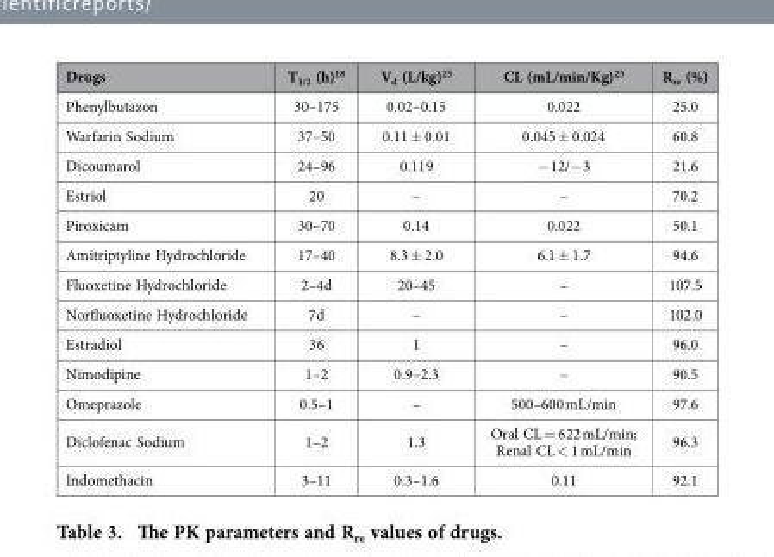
<table><thead><tr><td>Drugs</td><td>T<sub>1/2</sub> (h)<sup>18</sup></td><td>V<sub>d</sub> (L/kg)<sup>25</sup></td><td>CL (mL/min/Kg)<sup>25</sup></td><td>R<sub>re</sub> (%)</td></tr></thead><tbody><tr><td>Phenylbutazon</td><td>30–175</td><td>0.02–0.15</td><td>0.022</td><td>25.0</td></tr><tr><td>Warfarin Sodium</td><td>37–50</td><td>0.11 ± 0.01</td><td>0.045 ± 0.024</td><td>60.8</td></tr><tr><td>Dicoumarol</td><td>24–96</td><td>0.119</td><td>− 12/− 3</td><td>21.6</td></tr><tr><td>Estriol</td><td>20</td><td>–</td><td>–</td><td>70.2</td></tr><tr><td>Piroxicam</td><td>30–70</td><td>0.14</td><td>0.022</td><td>50.1</td></tr><tr><td>Amitriptyline Hydrochloride</td><td>17–40</td><td>8.3 ± 2.0</td><td>6.1 ± 1.7</td><td>94.6</td></tr><tr><td>Fluoxetine Hydrochloride</td><td>2–4d</td><td>20–45</td><td>–</td><td>107.5</td></tr><tr><td>Norfluoxetine Hydrochloride</td><td>7d</td><td>–</td><td>–</td><td>102.0</td></tr><tr><td>Estradiol</td><td>36</td><td>1</td><td>–</td><td>96.0</td></tr><tr><td>Nimodipine</td><td>1–2</td><td>0.9–2.3</td><td>–</td><td>90.5</td></tr><tr><td>Omeprazole</td><td>0.5–1</td><td>–</td><td>500–600 mL/min</td><td>97.6</td></tr><tr><td>Diclofenac Sodium</td><td>1–2</td><td>1.3</td><td>Oral CL = 622 mL/min; Renal CL &lt; 1 mL/min</td><td>96.3</td></tr><tr><td>Indomethacin</td><td>3–11</td><td>0.3–1.6</td><td>0.11</td><td>92.1</td></tr></tbody></table>